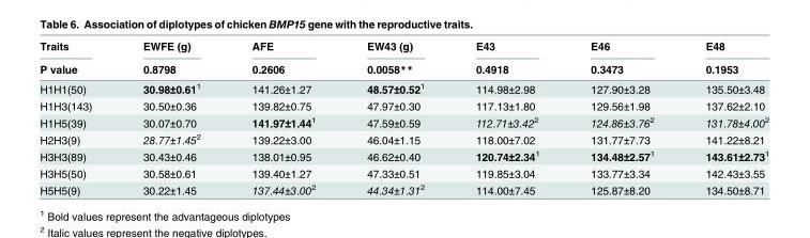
<table><thead><tr><td rowspan="2">Traits P value</td><td rowspan="2">EWFE (g) 0.8798</td><td rowspan="2">AFE 0.2606</td><td rowspan="2">EW43 (g) 0.0058**</td><td rowspan="2">E43 0.4918</td><td rowspan="2">E46 0.3473</td><td rowspan="2">E48 0.1953</td></tr><tr></tr></thead><tbody><tr><td>H1H1(50)</td><td>30.98±0.61<sup>1</sup></td><td>141.26±1.27</td><td>48.57±0.52<sup>1</sup></td><td>114.98±2.98</td><td>127.90±3.28</td><td>135.50±3.48</td></tr><tr><td>H1H3(143)</td><td>30.50±0.36</td><td>139.82±0.75</td><td>47.97±0.30</td><td>117.13±1.80</td><td>129.56±1.98</td><td>137.62±2.10</td></tr><tr><td>H1H5(39)</td><td>30.07±0.70</td><td>141.97±1.44<sup>1</sup></td><td>47.59±0.59</td><td>112.71±3.42<sup>2</sup></td><td>124.86±3.76<sup>2</sup></td><td>131.78±4.00<sup>2</sup></td></tr><tr><td>H2H3(9)</td><td>28.77±1.45<sup>2</sup></td><td>139.22±3.00</td><td>46.04±1.15</td><td>118.00±7.02</td><td>131.77±7.73</td><td>141.22±8.21</td></tr><tr><td>H3H3(89)</td><td>30.43±0.46</td><td>138.01±0.95</td><td>46.62±0.40</td><td>120.74±2.34<sup>1</sup></td><td>134.48±2.57<sup>1</sup></td><td>143.61±2.73<sup>1</sup></td></tr><tr><td>H3H5(50)</td><td>30.58±0.61</td><td>139.40±1.27</td><td>47.33±0.51</td><td>119.85±3.04</td><td>133.77±3.34</td><td>142.43±3.55</td></tr><tr><td>H5H5(9)</td><td>30.22±1.45</td><td>137.44±3.00<sup>2</sup></td><td>44.34±1.31<sup>2</sup></td><td>114.00±7.45</td><td>125.87±8.20</td><td>134.50±8.71</td></tr></tbody></table>